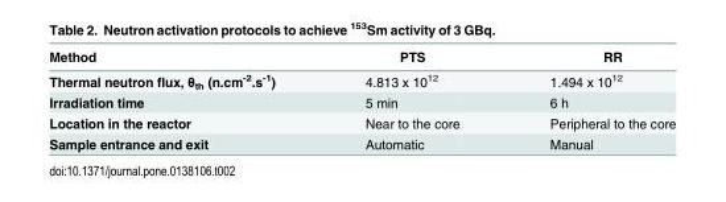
<table><thead><tr><td>Method</td><td>PTS</td><td>RR</td></tr></thead><tbody><tr><td>Thermal neutron flux, θ<sub>th</sub> (n.cm<sup>-2</sup>.s<sup>-1</sup>)</td><td>4.813 x 10<sup>12</sup></td><td>1.494 x 10<sup>12</sup></td></tr><tr><td>Irradiation time</td><td>5 min</td><td>6 h</td></tr><tr><td>Location in the reactor</td><td>Near to the core</td><td>Peripheral to the core</td></tr><tr><td>Sample entrance and exit</td><td>Automatic</td><td>Manual</td></tr></tbody></table>